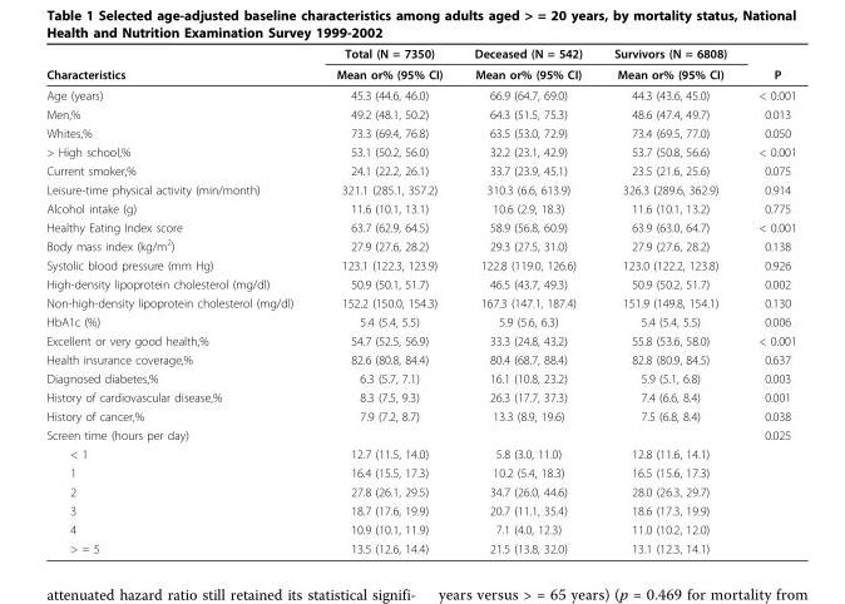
<table><thead><tr><td rowspan="2">Characteristics</td><td rowspan="2">Total (N = 7350) Mean or% (95% CI)</td><td rowspan="2">Deceased (N = 542) Mean or% (95% CI)</td><td rowspan="2">Survivors (N = 6808) Mean or% (95% CI)</td><td rowspan="2">P</td></tr><tr></tr></thead><tbody><tr><td>Age (years)</td><td>45.3 (44.6, 46.0)</td><td>66.9 (64.7, 69.0)</td><td>44.3 (43.6, 45.0)</td><td>&lt; 0.001</td></tr><tr><td>Men,%</td><td>49.2 (48.1, 50.2)</td><td>64.3 (51.5, 75.3)</td><td>48.6 (47.4, 49.7)</td><td>0.013</td></tr><tr><td>Whites,%</td><td>73.3 (69.4, 76.8)</td><td>63.5 (53.0, 72.9)</td><td>73.4 (69.5, 77.0)</td><td>0.050</td></tr><tr><td>&gt; High school,%</td><td>53.1 (50.2, 56.0)</td><td>32.2 (23.1, 42.9)</td><td>53.7 (50.8, 56.6)</td><td>&lt; 0.001</td></tr><tr><td>Current smoker,%</td><td>24.1 (22.2, 26.1)</td><td>33.7 (23.9, 45.1)</td><td>23.5 (21.6, 25.6)</td><td>0.075</td></tr><tr><td>Leisure-time physical activity (min/month)</td><td>321.1 (285.1, 357.2)</td><td>310.3 (6.6, 613.9)</td><td>326.3 (289.6, 362.9)</td><td>0.914</td></tr><tr><td>Alcohol intake (g)</td><td>11.6 (10.1, 13.1)</td><td>10.6 (2.9, 18.3)</td><td>11.6 (10.1, 13.2)</td><td>0.775</td></tr><tr><td>Healthy Eating Index score</td><td>63.7 (62.9, 64.5)</td><td>58.9 (56.8, 60.9)</td><td>63.9 (63.0, 64.7)</td><td>&lt; 0.001</td></tr><tr><td>Body mass index (kg/m<sup>2</sup>)</td><td>27.9 (27.6, 28.2)</td><td>29.3 (27.5, 31.0)</td><td>27.9 (27.6, 28.2)</td><td>0.138</td></tr><tr><td>Systolic blood pressure (mm Hg)</td><td>123.1 (122.3, 123.9)</td><td>122.8 (119.0, 126.6)</td><td>123.0 (122.2, 123.8)</td><td>0.926</td></tr><tr><td>High-density lipoprotein cholesterol (mg/dl)</td><td>50.9 (50.1, 51.7)</td><td>46.5 (43.7, 49.3)</td><td>50.9 (50.2, 51.7)</td><td>0.002</td></tr><tr><td>Non-high-density lipoprotein cholesterol (mg/dl)</td><td>152.2 (150.0, 154.3)</td><td>167.3 (147.1, 187.4)</td><td>151.9 (149.8, 154.1)</td><td>0.130</td></tr><tr><td>HbA1c (%)</td><td>5.4 (5.4, 5.5)</td><td>5.9 (5.6, 6.3)</td><td>5.4 (5.4, 5.5)</td><td>0.006</td></tr><tr><td>Excellent or very good health,%</td><td>54.7 (52.5, 56.9)</td><td>33.3 (24.8, 43.2)</td><td>55.8 (53.6, 58.0)</td><td>&lt; 0.001</td></tr><tr><td>Health insurance coverage,%</td><td>82.6 (80.8, 84.4)</td><td>80.4 (68.7, 88.4)</td><td>82.8 (80.9, 84.5)</td><td>0.637</td></tr><tr><td>Diagnosed diabetes,%</td><td>6.3 (5.7, 7.1)</td><td>16.1 (10.8, 23.2)</td><td>5.9 (5.1, 6.8)</td><td>0.003</td></tr><tr><td>History of cardiovascular disease,%</td><td>8.3 (7.5, 9.3)</td><td>26.3 (17.7, 37.3)</td><td>7.4 (6.6, 8.4)</td><td>0.001</td></tr><tr><td>History of cancer,%</td><td>7.9 (7.2, 8.7)</td><td>13.3 (8.9, 19.6)</td><td>7.5 (6.8, 8.4)</td><td>0.038</td></tr><tr><td>Screen time (hours per day)</td><td></td><td></td><td></td><td>0.025</td></tr><tr><td>&lt; 1</td><td>12.7 (11.5, 14.0)</td><td>5.8 (3.0, 11.0)</td><td>12.8 (11.6, 14.1)</td><td></td></tr><tr><td>1</td><td>16.4 (15.5, 17.3)</td><td>10.2 (5.4, 18.3)</td><td>16.5 (15.6, 17.3)</td><td></td></tr><tr><td>2</td><td>27.8 (26.1, 29.5)</td><td>34.7 (26.0, 44.6)</td><td>28.0 (26.3, 29.7)</td><td></td></tr><tr><td>3</td><td>18.7 (17.6, 19.9)</td><td>20.7 (11.1, 35.4)</td><td>18.6 (17.3, 19.9)</td><td></td></tr><tr><td>4</td><td>10.9 (10.1, 11.9)</td><td>7.1 (4.0, 12.3)</td><td>11.0 (10.2, 12.0)</td><td></td></tr><tr><td>&gt; = 5</td><td>13.5 (12.6, 14.4)</td><td>21.5 (13.8, 32.0)</td><td>13.1 (12.3, 14.1)</td><td></td></tr></tbody></table>